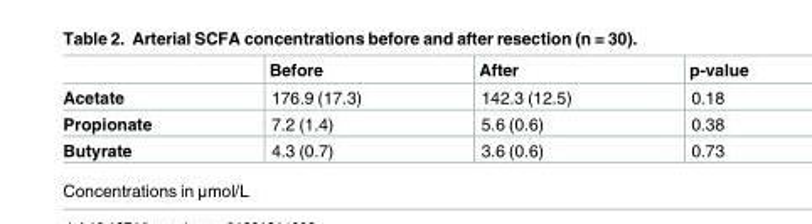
<table><thead><tr><td></td><td>Before</td><td>After</td><td>p-value</td></tr></thead><tbody><tr><td>Acetate</td><td>176.9 (17.3)</td><td>142.3 (12.5)</td><td>0.18</td></tr><tr><td>Propionate</td><td>7.2 (1.4)</td><td>5.6 (0.6)</td><td>0.38</td></tr><tr><td>Butyrate</td><td>4.3 (0.7)</td><td>3.6 (0.6)</td><td>0.73</td></tr></tbody></table>